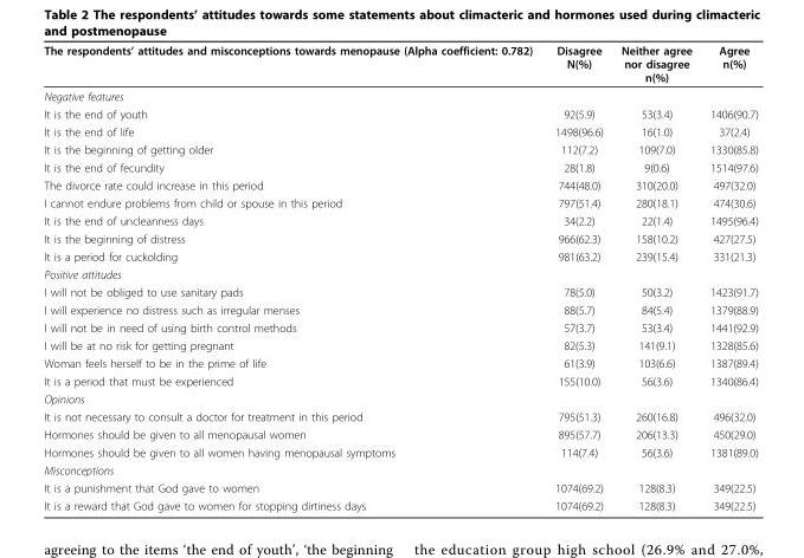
<table><thead><tr><td>The respondents’ attitudes and misconceptions towards menopause (Alpha coefficient: 0.782)</td><td>Disagree N(%)</td><td>Neither agree nor disagree n(%)</td><td>Agree n(%)</td></tr></thead><tbody><tr><td colspan="4">Negative features</td></tr><tr><td>It is the end of youth</td><td>92(5.9)</td><td>53(3.4)</td><td>1406(90.7)</td></tr><tr><td>It is the end of life</td><td>1498(96.6)</td><td>16(1.0)</td><td>37(2.4)</td></tr><tr><td>It is the beginning of getting older</td><td>112(7.2)</td><td>109(7.0)</td><td>1330(85.8)</td></tr><tr><td>It is the end of fecundity</td><td>28(1.8)</td><td>9(0.6)</td><td>1514(97.6)</td></tr><tr><td>The divorce rate could increase in this period</td><td>744(48.0)</td><td>310(20.0)</td><td>497(32.0)</td></tr><tr><td>I cannot endure problems from child or spouse in this period</td><td>797(51.4)</td><td>280(18.1)</td><td>474(30.6)</td></tr><tr><td>It is the end of uncleanness days</td><td>34(2.2)</td><td>22(1.4)</td><td>1495(96.4)</td></tr><tr><td>It is the beginning of distress</td><td>966(62.3)</td><td>158(10.2)</td><td>427(27.5)</td></tr><tr><td>It is a period for cuckolding</td><td>981(63.2)</td><td>239(15.4)</td><td>331(21.3)</td></tr><tr><td colspan="4">Positive attitudes</td></tr><tr><td>I will not be obliged to use sanitary pads</td><td>78(5.0)</td><td>50(3.2)</td><td>1423(91.7)</td></tr><tr><td>I will experience no distress such as irregular menses</td><td>88(5.7)</td><td>84(5.4)</td><td>1379(88.9)</td></tr><tr><td>I will not be in need of using birth control methods</td><td>57(3.7)</td><td>53(3.4)</td><td>1441(92.9)</td></tr><tr><td>I will be at no risk for getting pregnant</td><td>82(5.3)</td><td>141(9.1)</td><td>1328(85.6)</td></tr><tr><td>Woman feels herself to be in the prime of life</td><td>61(3.9)</td><td>103(6.6)</td><td>1387(89.4)</td></tr><tr><td>It is a period that must be experienced</td><td>155(10.0)</td><td>56(3.6)</td><td>1340(86.4)</td></tr><tr><td colspan="4">Opinions</td></tr><tr><td>It is not necessary to consult a doctor for treatment in this period</td><td>795(51.3)</td><td>260(16.8)</td><td>496(32.0)</td></tr><tr><td>Hormones should be given to all menopausal women</td><td>895(57.7)</td><td>206(13.3)</td><td>450(29.0)</td></tr><tr><td>Hormones should be given to all women having menopausal symptoms</td><td>114(7.4)</td><td>56(3.6)</td><td>1381(89.0)</td></tr><tr><td colspan="4">Misconceptions</td></tr><tr><td>It is a punishment that God gave to women</td><td>1074(69.2)</td><td>128(8.3)</td><td>349(22.5)</td></tr><tr><td>It is a reward that God gave to women for stopping dirtiness days</td><td>1074(69.2)</td><td>128(8.3)</td><td>349(22.5)</td></tr></tbody></table>